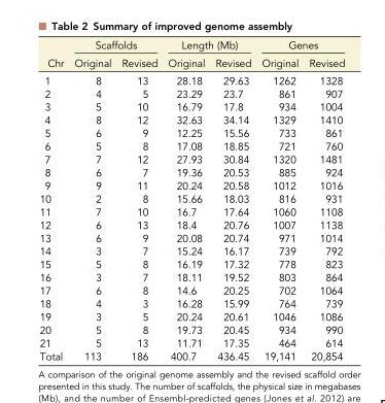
<table><thead><tr><td rowspan="2">Chr</td><td colspan="2">Scaffolds</td><td colspan="2">Length (Mb)</td><td colspan="2">Genes</td></tr><tr><td>Original</td><td>Revised</td><td>Original</td><td>Revised</td><td>Original</td><td>Revised</td></tr></thead><tbody><tr><td>1</td><td>8</td><td>13</td><td>28.18</td><td>29.63</td><td>1262</td><td>1328</td></tr><tr><td>2</td><td>4</td><td>5</td><td>23.29</td><td>23.7</td><td>861</td><td>907</td></tr><tr><td>3</td><td>5</td><td>10</td><td>16.79</td><td>17.8</td><td>934</td><td>1004</td></tr><tr><td>4</td><td>8</td><td>12</td><td>32.63</td><td>34.14</td><td>1329</td><td>1410</td></tr><tr><td>5</td><td>6</td><td>9</td><td>12.25</td><td>15.56</td><td>733</td><td>861</td></tr><tr><td>6</td><td>5</td><td>8</td><td>17.08</td><td>18.85</td><td>721</td><td>760</td></tr><tr><td>7</td><td>7</td><td>12</td><td>27.93</td><td>30.84</td><td>1320</td><td>1481</td></tr><tr><td>8</td><td>6</td><td>7</td><td>19.36</td><td>20.53</td><td>885</td><td>924</td></tr><tr><td>9</td><td>9</td><td>11</td><td>20.24</td><td>20.58</td><td>1012</td><td>1016</td></tr><tr><td>10</td><td>2</td><td>8</td><td>15.66</td><td>18.03</td><td>816</td><td>931</td></tr><tr><td>11</td><td>7</td><td>10</td><td>16.7</td><td>17.64</td><td>1060</td><td>1108</td></tr><tr><td>12</td><td>6</td><td>13</td><td>18.4</td><td>20.76</td><td>1007</td><td>1138</td></tr><tr><td>13</td><td>6</td><td>9</td><td>20.08</td><td>20.74</td><td>971</td><td>1014</td></tr><tr><td>14</td><td>3</td><td>7</td><td>15.24</td><td>16.17</td><td>739</td><td>792</td></tr><tr><td>15</td><td>5</td><td>8</td><td>16.19</td><td>17.32</td><td>778</td><td>823</td></tr><tr><td>16</td><td>3</td><td>7</td><td>18.11</td><td>19.52</td><td>803</td><td>864</td></tr><tr><td>17</td><td>6</td><td>8</td><td>14.6</td><td>20.25</td><td>702</td><td>1064</td></tr><tr><td>18</td><td>4</td><td>3</td><td>16.28</td><td>15.99</td><td>764</td><td>739</td></tr><tr><td>19</td><td>3</td><td>5</td><td>20.24</td><td>20.61</td><td>1046</td><td>1086</td></tr><tr><td>20</td><td>5</td><td>8</td><td>19.73</td><td>20.45</td><td>934</td><td>990</td></tr><tr><td>21</td><td>5</td><td>13</td><td>11.71</td><td>17.35</td><td>464</td><td>614</td></tr><tr><td>Total</td><td>113</td><td>186</td><td>400.7</td><td>436.45</td><td>19,141</td><td>20,854</td></tr></tbody></table>